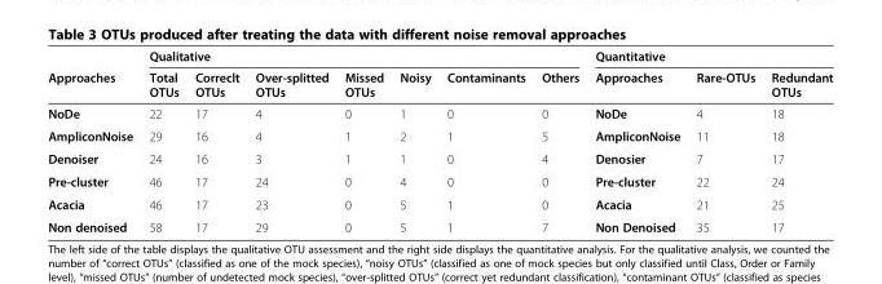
<table><thead><tr><td rowspan="2">Approaches</td><td colspan="7">Qualitative</td><td colspan="3">Quantitative</td></tr><tr><td>Total OTUs</td><td>Correclt OTUs</td><td>Over-splitted OTUs</td><td>Missed OTUs</td><td>Noisy</td><td>Contaminants</td><td>Others</td><td>Approaches</td><td>Rare-OTUs</td><td>Redundant OTUs</td></tr></thead><tbody><tr><td>NoDe</td><td>22</td><td>17</td><td>4</td><td>0</td><td>1</td><td>0</td><td>0</td><td>NoDe</td><td>4</td><td>18</td></tr><tr><td>AmpliconNoise</td><td>29</td><td>16</td><td>4</td><td>1</td><td>2</td><td>1</td><td>5</td><td>AmpliconNoise</td><td>11</td><td>18</td></tr><tr><td>Denoiser</td><td>24</td><td>16</td><td>3</td><td>1</td><td>1</td><td>0</td><td>4</td><td>Denosier</td><td>7</td><td>17</td></tr><tr><td>Pre-cluster</td><td>46</td><td>17</td><td>24</td><td>0</td><td>4</td><td>0</td><td>0</td><td>Pre-cluster</td><td>22</td><td>24</td></tr><tr><td>Acacia</td><td>46</td><td>17</td><td>23</td><td>0</td><td>5</td><td>1</td><td>0</td><td>Acacia</td><td>21</td><td>25</td></tr><tr><td>Non denoised</td><td>58</td><td>17</td><td>29</td><td>0</td><td>5</td><td>1</td><td>7</td><td>Non Denoised</td><td>35</td><td>17</td></tr></tbody></table>